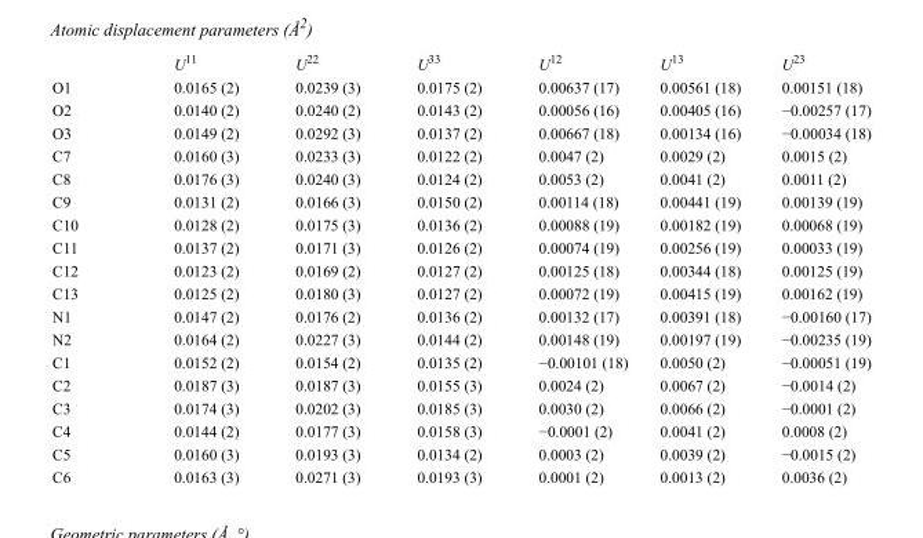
<table><thead><tr><td></td><td>U<sup>11</sup></td><td>U<sup>22</sup></td><td>U<sup>33</sup></td><td>U<sup>12</sup></td><td>U<sup>13</sup></td><td>U<sup>23</sup></td></tr></thead><tbody><tr><td>O1</td><td>0.0165 (2)</td><td>0.0239 (3)</td><td>0.0175 (2)</td><td>0.00637 (17)</td><td>0.00561 (18)</td><td>0.00151 (18)</td></tr><tr><td>O2</td><td>0.0140 (2)</td><td>0.0240 (2)</td><td>0.0143 (2)</td><td>0.00056 (16)</td><td>0.00405 (16)</td><td>−0.00257 (17)</td></tr><tr><td>O3</td><td>0.0149 (2)</td><td>0.0292 (3)</td><td>0.0137 (2)</td><td>0.00667 (18)</td><td>0.00134 (16)</td><td>−0.00034 (18)</td></tr><tr><td>C7</td><td>0.0160 (3)</td><td>0.0233 (3)</td><td>0.0122 (2)</td><td>0.0047 (2)</td><td>0.0029 (2)</td><td>0.0015 (2)</td></tr><tr><td>C8</td><td>0.0176 (3)</td><td>0.0240 (3)</td><td>0.0124 (2)</td><td>0.0053 (2)</td><td>0.0041 (2)</td><td>0.0011 (2)</td></tr><tr><td>C9</td><td>0.0131 (2)</td><td>0.0166 (3)</td><td>0.0150 (2)</td><td>0.00114 (18)</td><td>0.00441 (19)</td><td>0.00139 (19)</td></tr><tr><td>C10</td><td>0.0128 (2)</td><td>0.0175 (3)</td><td>0.0136 (2)</td><td>0.00088 (19)</td><td>0.00182 (19)</td><td>0.00068 (19)</td></tr><tr><td>C11</td><td>0.0137 (2)</td><td>0.0171 (3)</td><td>0.0126 (2)</td><td>0.00074 (19)</td><td>0.00256 (19)</td><td>0.00033 (19)</td></tr><tr><td>C12</td><td>0.0123 (2)</td><td>0.0169 (2)</td><td>0.0127 (2)</td><td>0.00125 (18)</td><td>0.00344 (18)</td><td>0.00125 (19)</td></tr><tr><td>C13</td><td>0.0125 (2)</td><td>0.0180 (3)</td><td>0.0127 (2)</td><td>0.00072 (19)</td><td>0.00415 (19)</td><td>0.00162 (19)</td></tr><tr><td>N1</td><td>0.0147 (2)</td><td>0.0176 (2)</td><td>0.0136 (2)</td><td>0.00132 (17)</td><td>0.00391 (18)</td><td>−0.00160 (17)</td></tr><tr><td>N2</td><td>0.0164 (2)</td><td>0.0227 (3)</td><td>0.0144 (2)</td><td>0.00148 (19)</td><td>0.00197 (19)</td><td>−0.00235 (19)</td></tr><tr><td>C1</td><td>0.0152 (2)</td><td>0.0154 (2)</td><td>0.0135 (2)</td><td>−0.00101 (18)</td><td>0.0050 (2)</td><td>−0.00051 (19)</td></tr><tr><td>C2</td><td>0.0187 (3)</td><td>0.0187 (3)</td><td>0.0155 (3)</td><td>0.0024 (2)</td><td>0.0067 (2)</td><td>−0.0014 (2)</td></tr><tr><td>C3</td><td>0.0174 (3)</td><td>0.0202 (3)</td><td>0.0185 (3)</td><td>0.0030 (2)</td><td>0.0066 (2)</td><td>−0.0001 (2)</td></tr><tr><td>C4</td><td>0.0144 (2)</td><td>0.0177 (3)</td><td>0.0158 (3)</td><td>−0.0001 (2)</td><td>0.0041 (2)</td><td>0.0008 (2)</td></tr><tr><td>C5</td><td>0.0160 (3)</td><td>0.0193 (3)</td><td>0.0134 (2)</td><td>0.0003 (2)</td><td>0.0039 (2)</td><td>−0.0015 (2)</td></tr><tr><td>C6</td><td>0.0163 (3)</td><td>0.0271 (3)</td><td>0.0193 (3)</td><td>0.0001 (2)</td><td>0.0013 (2)</td><td>0.0036 (2)</td></tr></tbody></table>